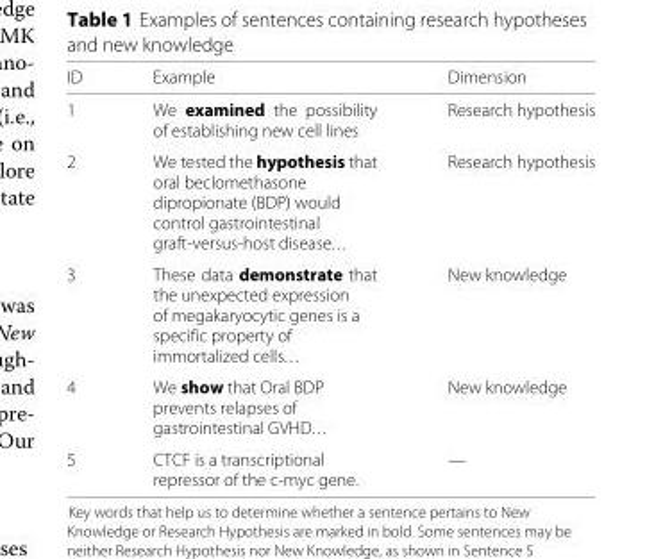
<table><thead><tr><td>ID</td><td>Example</td><td>Dimension</td></tr></thead><tbody><tr><td>1</td><td>We examined the possibility of establishing new cell lines</td><td>Research hypothesis</td></tr><tr><td>2</td><td>We tested the hypothesis that oral beclomethasone dipropionate (BDP) would control gastrointestinal graft-versus-host disease...</td><td>Research hypothesis</td></tr><tr><td>3</td><td>These data demonstrate that the unexpected expression of megakaryocytic genes is a specific property of immortalized cells...</td><td>New knowledge</td></tr><tr><td>4</td><td>We show that Oral BDP prevents relapses of gastrointestinal GVHD...</td><td>New knowledge</td></tr><tr><td>5</td><td>CTCF is a transcriptional repressor of the c-myc gene.</td><td>—</td></tr></tbody></table>